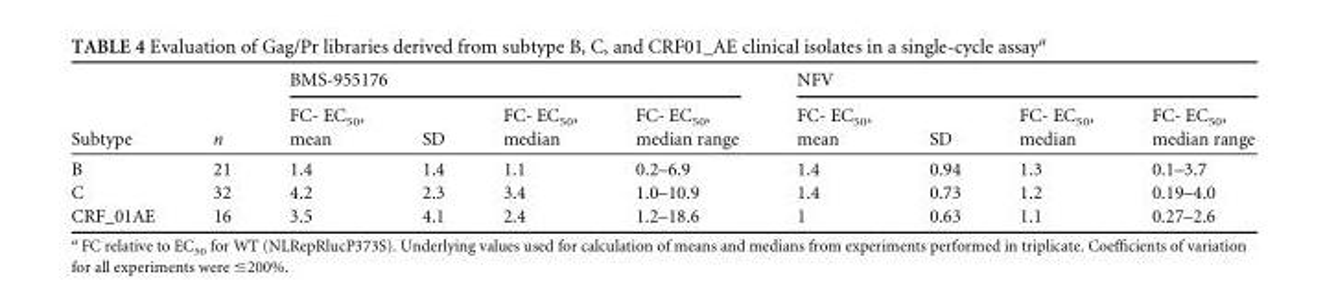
<table><thead><tr><td rowspan="2">Subtype</td><td rowspan="2">n</td><td colspan="4">BMS-955176</td><td colspan="4">NFV</td></tr><tr><td>FC- EC<sub>50</sub>, mean</td><td>SD</td><td>FC- EC<sub>50</sub>, median</td><td>FC- EC<sub>50</sub>, median range</td><td>FC- EC<sub>50</sub>, mean</td><td>SD</td><td>FC- EC<sub>50</sub>, median</td><td>FC- EC<sub>50</sub>, median range</td></tr></thead><tbody><tr><td>B</td><td>21</td><td>1.4</td><td>1.4</td><td>1.1</td><td>0.2–6.9</td><td>1.4</td><td>0.94</td><td>1.3</td><td>0.1–3.7</td></tr><tr><td>C</td><td>32</td><td>4.2</td><td>2.3</td><td>3.4</td><td>1.0–10.9</td><td>1.4</td><td>0.73</td><td>1.2</td><td>0.19–4.0</td></tr><tr><td>CRF_01AE</td><td>16</td><td>3.5</td><td>4.1</td><td>2.4</td><td>1.2–18.6</td><td>1</td><td>0.63</td><td>1.1</td><td>0.27–2.6</td></tr></tbody></table>